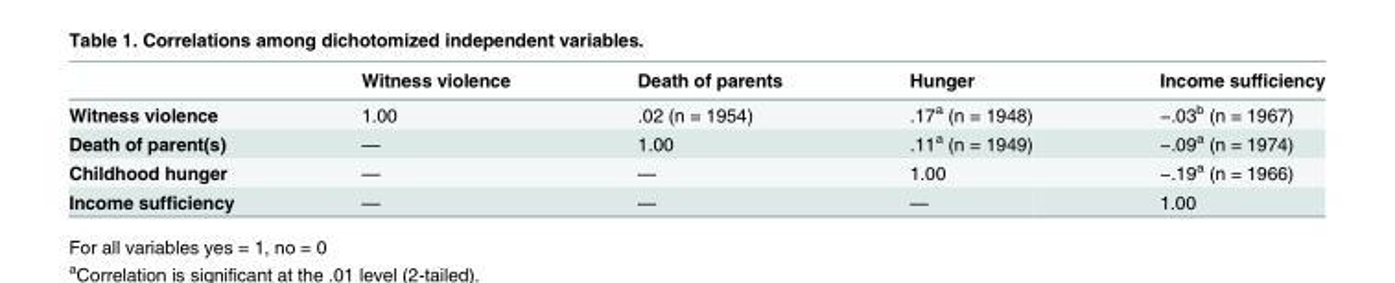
<table><thead><tr><td></td><td>Witness violence</td><td>Death of parents</td><td>Hunger</td><td>Income sufficiency</td></tr></thead><tbody><tr><td>Witness violence</td><td>1.00</td><td>.02 (n = 1954)</td><td>.17<sup>a</sup> (n = 1948)</td><td>−.03<sup>b</sup> (n = 1967)</td></tr><tr><td>Death of parent(s)</td><td>—</td><td>1.00</td><td>.11<sup>a</sup> (n = 1949)</td><td>−.09<sup>a</sup> (n = 1974)</td></tr><tr><td>Childhood hunger</td><td>—</td><td>—</td><td>1.00</td><td>−.19<sup>a</sup> (n = 1966)</td></tr><tr><td>Income sufficiency</td><td>—</td><td>—</td><td>—</td><td>1.00</td></tr></tbody></table>